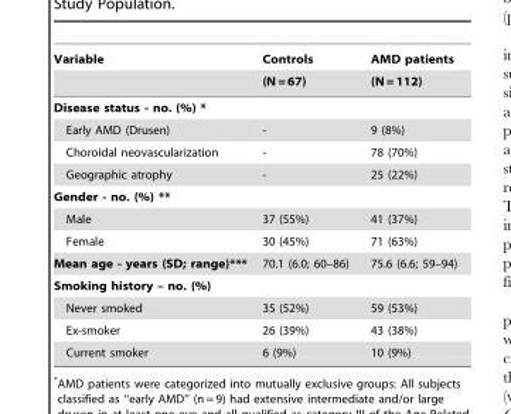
<table><thead><tr><td rowspan="2">Variable</td><td rowspan="2">Controls (N = 67)</td><td rowspan="2">AMD patients (N = 112)</td></tr><tr></tr></thead><tbody><tr><td colspan="3">Disease status - no. (%) *</td></tr><tr><td>Early AMD (Drusen)</td><td>-</td><td>9 (8%)</td></tr><tr><td>Choroidal neovascularization</td><td>-</td><td>78 (70%)</td></tr><tr><td>Geographic atrophy</td><td>-</td><td>25 (22%)</td></tr><tr><td colspan="3">Gender - no. (%) **</td></tr><tr><td>Male</td><td>37 (55%)</td><td>41 (37%)</td></tr><tr><td>Female</td><td>30 (45%)</td><td>71 (63%)</td></tr><tr><td>Mean age - years (SD; range)***</td><td>70.1 (6.0; 60–86)</td><td>75.6 (6.6; 59–94)</td></tr><tr><td colspan="3">Smoking history – no. (%)</td></tr><tr><td>Never smoked</td><td>35 (52%)</td><td>59 (53%)</td></tr><tr><td>Ex-smoker</td><td>26 (39%)</td><td>43 (38%)</td></tr><tr><td>Current smoker</td><td>6 (9%)</td><td>10 (9%)</td></tr></tbody></table>